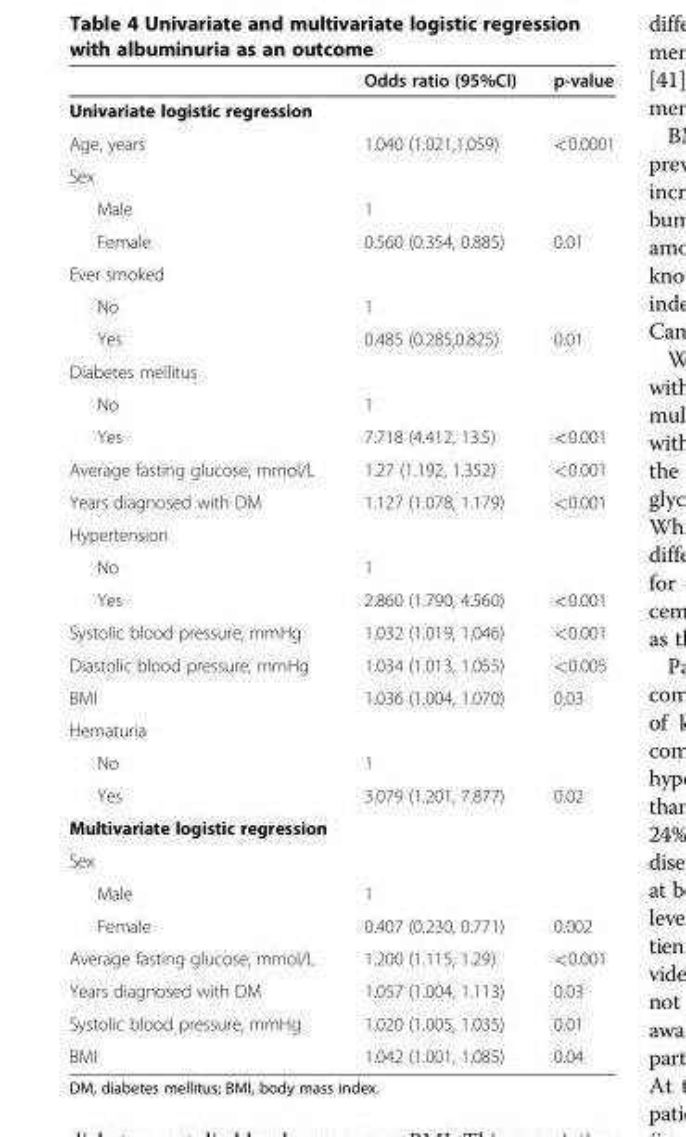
<table><thead><tr><td></td><td>Odds ratio (95%CI)</td><td>p-value</td></tr></thead><tbody><tr><td colspan="3">Univariate logistic regression</td></tr><tr><td>Age, years</td><td>1.040 (1.021,1.059)</td><td>&lt;0.0001</td></tr><tr><td colspan="3">Sex</td></tr><tr><td>Male</td><td>1</td><td></td></tr><tr><td>Female</td><td>0.560 (0.354, 0.885)</td><td>0.01</td></tr><tr><td colspan="3">Ever smoked</td></tr><tr><td>No</td><td>1</td><td></td></tr><tr><td>Yes</td><td>0.485 (0.285,0.825)</td><td>0.01</td></tr><tr><td colspan="3">Diabetes mellitus</td></tr><tr><td>No</td><td>1</td><td></td></tr><tr><td>Yes</td><td>7.718 (4.412, 13.5)</td><td>&lt;0.001</td></tr><tr><td>Average fasting glucose, mmol/L</td><td>1.27 (1.192, 1.352)</td><td>&lt;0.001</td></tr><tr><td>Years diagnosed with DM</td><td>1.127 (1.078, 1.179)</td><td>&lt;0.001</td></tr><tr><td colspan="3">Hypertension</td></tr><tr><td>No</td><td>1</td><td></td></tr><tr><td>Yes</td><td>2.860 (1.790, 4.560)</td><td>&lt;0.001</td></tr><tr><td>Systolic blood pressure, mmHg</td><td>1.032 (1.019, 1.046)</td><td>&lt;0.001</td></tr><tr><td>Diastolic blood pressure, mmHg</td><td>1.034 (1.013, 1.055)</td><td>&lt;0.005</td></tr><tr><td>BMI</td><td>1.036 (1.004, 1.070)</td><td>0.03</td></tr><tr><td colspan="3">Hematuria</td></tr><tr><td>No</td><td>1</td><td></td></tr><tr><td>Yes</td><td>3.079 (1.201, 7.877)</td><td>0.02</td></tr><tr><td colspan="3">Multivariate logistic regression</td></tr><tr><td colspan="3">Sex</td></tr><tr><td>Male</td><td>1</td><td></td></tr><tr><td>Female</td><td>0.407 (0.230, 0.771)</td><td>0.002</td></tr><tr><td>Average fasting glucose, mmol/L</td><td>1.200 (1.115, 1.29)</td><td>&lt;0.001</td></tr><tr><td>Years diagnosed with DM</td><td>1.057 (1.004, 1.113)</td><td>0.03</td></tr><tr><td>Systolic blood pressure, mmHg</td><td>1.020 (1.005, 1.035)</td><td>0.01</td></tr><tr><td>BMI</td><td>1.042 (1.001, 1.085)</td><td>0.04</td></tr></tbody></table>